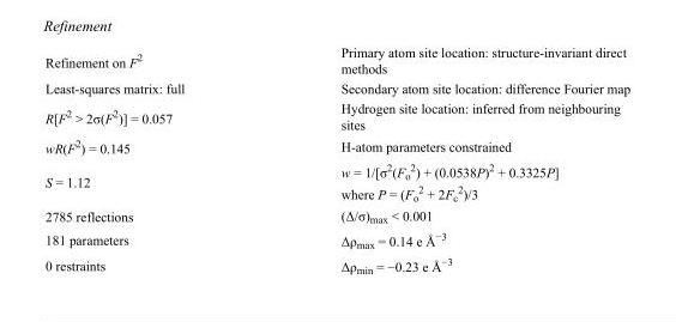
<table><tbody><tr><td>Refinement on F<sup>2</sup></td><td>Primary atom site location: structure-invariant direct methods</td></tr><tr><td>Least-squares matrix: full</td><td>Secondary atom site location: difference Fourier map</td></tr><tr><td>R[F<sup>2</sup> &gt; 2σ(F<sup>2</sup>)] = 0.057</td><td>Hydrogen site location: inferred from neighbouring sites</td></tr><tr><td>wR(F<sup>2</sup>) = 0.145</td><td>H-atom parameters constrained</td></tr><tr><td>S = 1.12</td><td>w = 1/[σ<sup>2</sup>(F<sub>o</sub> <sup>2</sup>) + (0.0538P)<sup>2</sup> + 0.3325P] where P = (F<sub>o</sub> <sup>2</sup> + 2F<sub>c</sub> <sup>2</sup>)/3</td></tr><tr><td>2785 reflections</td><td>(Δ/σ)<sub>max</sub> &lt; 0.001</td></tr><tr><td>181 parameters</td><td>Δρ<sub>max</sub> = 0.14 e Å<sup>−3</sup></td></tr><tr><td>0 restraints</td><td>Δρ<sub>min</sub> = −0.23 e Å<sup>−3</sup></td></tr></tbody></table>